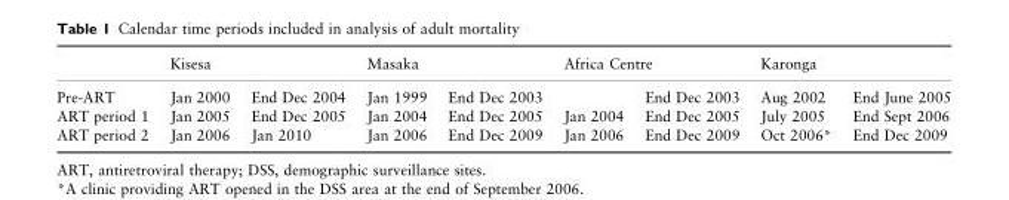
<table><thead><tr><td rowspan="2">Pre-ART</td><td colspan="2">Kisesa</td><td colspan="2">Masaka</td><td colspan="2">Africa Centre</td><td colspan="2">Karonga</td></tr><tr><td>Jan 2000</td><td>End Dec 2004</td><td>Jan 1999</td><td>End Dec 2003</td><td></td><td>End Dec 2003</td><td>Aug 2002</td><td>End June 2005</td></tr></thead><tbody><tr><td>ART period 1</td><td>Jan 2005</td><td>End Dec 2005</td><td>Jan 2004</td><td>End Dec 2005</td><td>Jan 2004</td><td>End Dec 2005</td><td>July 2005</td><td>End Sept 2006</td></tr><tr><td>ART period 2</td><td>Jan 2006</td><td>Jan 2010</td><td>Jan 2006</td><td>End Dec 2009</td><td>Jan 2006</td><td>End Dec 2009</td><td>Oct 2006*</td><td>End Dec 2009</td></tr></tbody></table>